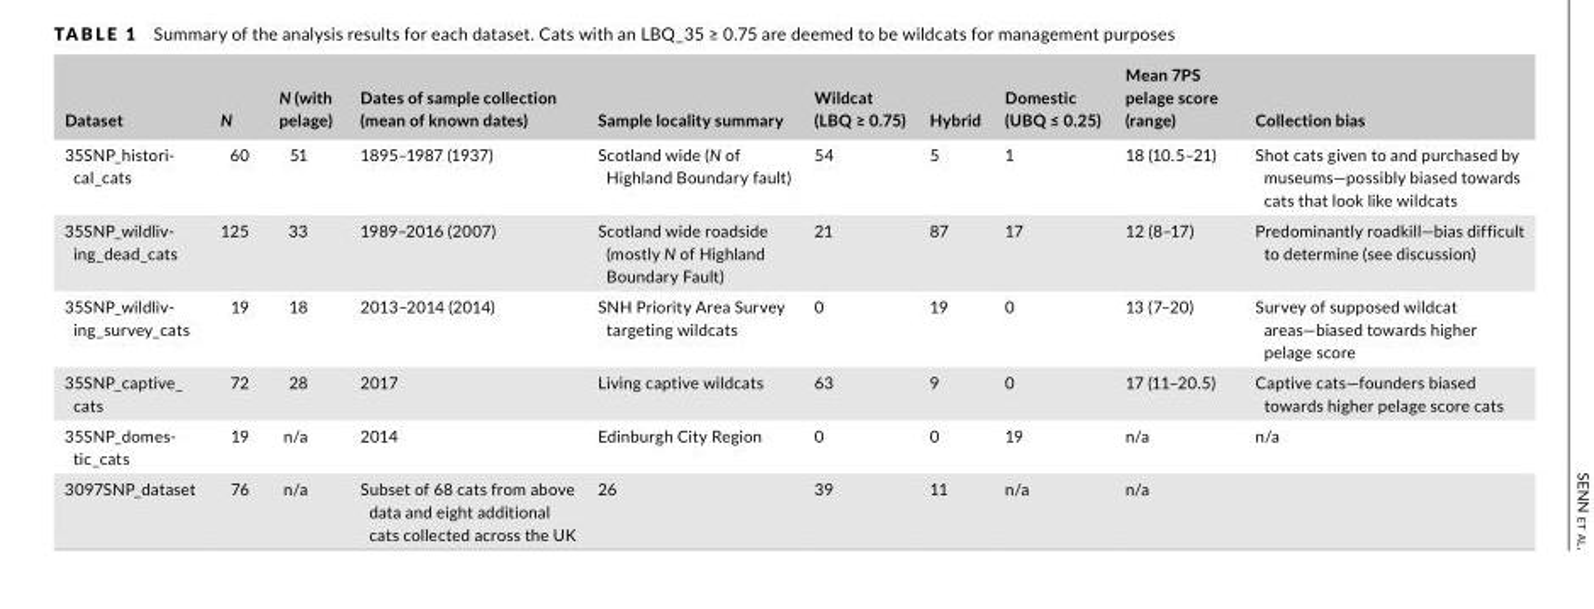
<table><thead><tr><td>Dataset</td><td>N</td><td>N (with pelage)</td><td>Dates of sample collection (mean of known dates)</td><td>Sample locality summary</td><td>Wildcat (LBQ ≥ 0.75)</td><td>Hybrid</td><td>Domestic (UBQ ≤ 0.25)</td><td>Mean 7PS pelage score (range)</td><td>Collection bias</td></tr></thead><tbody><tr><td>35SNP_histori‐ cal_cats</td><td>60</td><td>51</td><td>1895–1987 (1937)</td><td>Scotland wide (N of Highland Boundary fault)</td><td>54</td><td>5</td><td>1</td><td>18 (10.5–21)</td><td>Shot cats given to and purchased by museums—possibly biased towards cats that look like wildcats</td></tr><tr><td>35SNP_wildliv‐ ing_dead_cats</td><td>125</td><td>33</td><td>1989–2016 (2007)</td><td>Scotland wide roadside (mostly N of Highland Boundary Fault)</td><td>21</td><td>87</td><td>17</td><td>12 (8–17)</td><td>Predominantly roadkill—bias difficult to determine (see discussion)</td></tr><tr><td>35SNP_wildliv‐ ing_survey_cats</td><td>19</td><td>18</td><td>2013–2014 (2014)</td><td>SNH Priority Area Survey targeting wildcats</td><td>0</td><td>19</td><td>0</td><td>13 (7–20)</td><td>Survey of supposed wildcat areas—biased towards higher pelage score</td></tr><tr><td>35SNP_captive_ cats</td><td>72</td><td>28</td><td>2017</td><td>Living captive wildcats</td><td>63</td><td>9</td><td>0</td><td>17 (11–20.5)</td><td>Captive cats—founders biased towards higher pelage score cats</td></tr><tr><td>35SNP_domes‐ tic_cats</td><td>19</td><td>n/a</td><td>2014</td><td>Edinburgh City Region</td><td>0</td><td>0</td><td>19</td><td>n/a</td><td>n/a</td></tr><tr><td>3097SNP_dataset</td><td>76</td><td>n/a</td><td>Subset of 68 cats from above data and eight additional cats collected across the UK</td><td>26</td><td>39</td><td>11</td><td>n/a</td><td>n/a</td><td></td></tr></tbody></table>